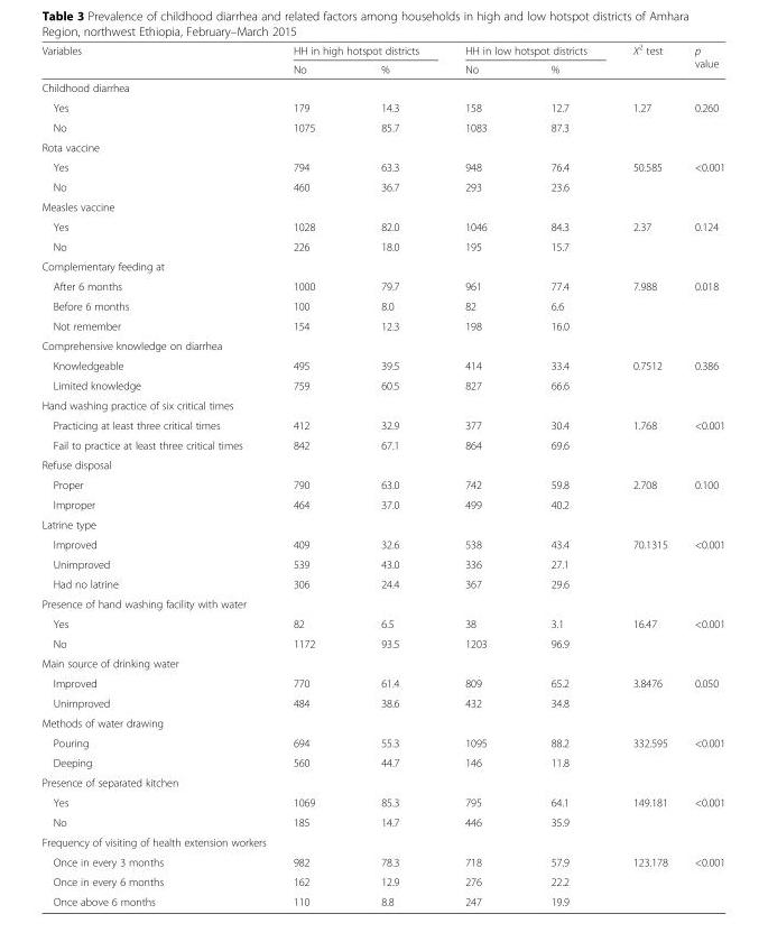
<table><thead><tr><td rowspan="2">Variables</td><td colspan="2">HH in high hotspot districts</td><td colspan="2">HH in low hotspot districts</td><td rowspan="2">X<sup>2</sup> test</td><td rowspan="2">p value</td></tr><tr><td>No</td><td>%</td><td>No</td><td>%</td></tr></thead><tbody><tr><td colspan="7">Childhood diarrhea</td></tr><tr><td>Yes</td><td>179</td><td>14.3</td><td>158</td><td>12.7</td><td>1.27</td><td>0.260</td></tr><tr><td>No</td><td>1075</td><td>85.7</td><td>1083</td><td>87.3</td><td></td><td></td></tr><tr><td colspan="7">Rota vaccine</td></tr><tr><td>Yes</td><td>794</td><td>63.3</td><td>948</td><td>76.4</td><td>50.585</td><td>&lt;0.001</td></tr><tr><td>No</td><td>460</td><td>36.7</td><td>293</td><td>23.6</td><td></td><td></td></tr><tr><td colspan="7">Measles vaccine</td></tr><tr><td>Yes</td><td>1028</td><td>82.0</td><td>1046</td><td>84.3</td><td>2.37</td><td>0.124</td></tr><tr><td>No</td><td>226</td><td>18.0</td><td>195</td><td>15.7</td><td></td><td></td></tr><tr><td colspan="7">Complementary feeding at</td></tr><tr><td>After 6 months</td><td>1000</td><td>79.7</td><td>961</td><td>77.4</td><td>7.988</td><td>0.018</td></tr><tr><td>Before 6 months</td><td>100</td><td>8.0</td><td>82</td><td>6.6</td><td></td><td></td></tr><tr><td>Not remember</td><td>154</td><td>12.3</td><td>198</td><td>16.0</td><td></td><td></td></tr><tr><td colspan="7">Comprehensive knowledge on diarrhea</td></tr><tr><td>Knowledgeable</td><td>495</td><td>39.5</td><td>414</td><td>33.4</td><td>0.7512</td><td>0.386</td></tr><tr><td>Limited knowledge</td><td>759</td><td>60.5</td><td>827</td><td>66.6</td><td></td><td></td></tr><tr><td colspan="7">Hand washing practice of six critical times</td></tr><tr><td>Practicing at least three critical times</td><td>412</td><td>32.9</td><td>377</td><td>30.4</td><td>1.768</td><td>&lt;0.001</td></tr><tr><td>Fail to practice at least three critical times</td><td>842</td><td>67.1</td><td>864</td><td>69.6</td><td></td><td></td></tr><tr><td colspan="7">Refuse disposal</td></tr><tr><td>Proper</td><td>790</td><td>63.0</td><td>742</td><td>59.8</td><td>2.708</td><td>0.100</td></tr><tr><td>Improper</td><td>464</td><td>37.0</td><td>499</td><td>40.2</td><td></td><td></td></tr><tr><td colspan="7">Latrine type</td></tr><tr><td>Improved</td><td>409</td><td>32.6</td><td>538</td><td>43.4</td><td>70.1315</td><td>&lt;0.001</td></tr><tr><td>Unimproved</td><td>539</td><td>43.0</td><td>336</td><td>27.1</td><td></td><td></td></tr><tr><td>Had no latrine</td><td>306</td><td>24.4</td><td>367</td><td>29.6</td><td></td><td></td></tr><tr><td colspan="7">Presence of hand washing facility with water</td></tr><tr><td>Yes</td><td>82</td><td>6.5</td><td>38</td><td>3.1</td><td>16.47</td><td>&lt;0.001</td></tr><tr><td>No</td><td>1172</td><td>93.5</td><td>1203</td><td>96.9</td><td></td><td></td></tr><tr><td colspan="7">Main source of drinking water</td></tr><tr><td>Improved</td><td>770</td><td>61.4</td><td>809</td><td>65.2</td><td>3.8476</td><td>0.050</td></tr><tr><td>Unimproved</td><td>484</td><td>38.6</td><td>432</td><td>34.8</td><td></td><td></td></tr><tr><td colspan="7">Methods of water drawing</td></tr><tr><td>Pouring</td><td>694</td><td>55.3</td><td>1095</td><td>88.2</td><td>332.595</td><td>&lt;0.001</td></tr><tr><td>Deeping</td><td>560</td><td>44.7</td><td>146</td><td>11.8</td><td></td><td></td></tr><tr><td colspan="7">Presence of separated kitchen</td></tr><tr><td>Yes</td><td>1069</td><td>85.3</td><td>795</td><td>64.1</td><td>149.181</td><td>&lt;0.001</td></tr><tr><td>No</td><td>185</td><td>14.7</td><td>446</td><td>35.9</td><td></td><td></td></tr><tr><td colspan="7">Frequency of visiting of health extension workers</td></tr><tr><td>Once in every 3 months</td><td>982</td><td>78.3</td><td>718</td><td>57.9</td><td>123.178</td><td>&lt;0.001</td></tr><tr><td>Once in every 6 months</td><td>162</td><td>12.9</td><td>276</td><td>22.2</td><td></td><td></td></tr><tr><td>Once above 6 months</td><td>110</td><td>8.8</td><td>247</td><td>19.9</td><td></td><td></td></tr></tbody></table>